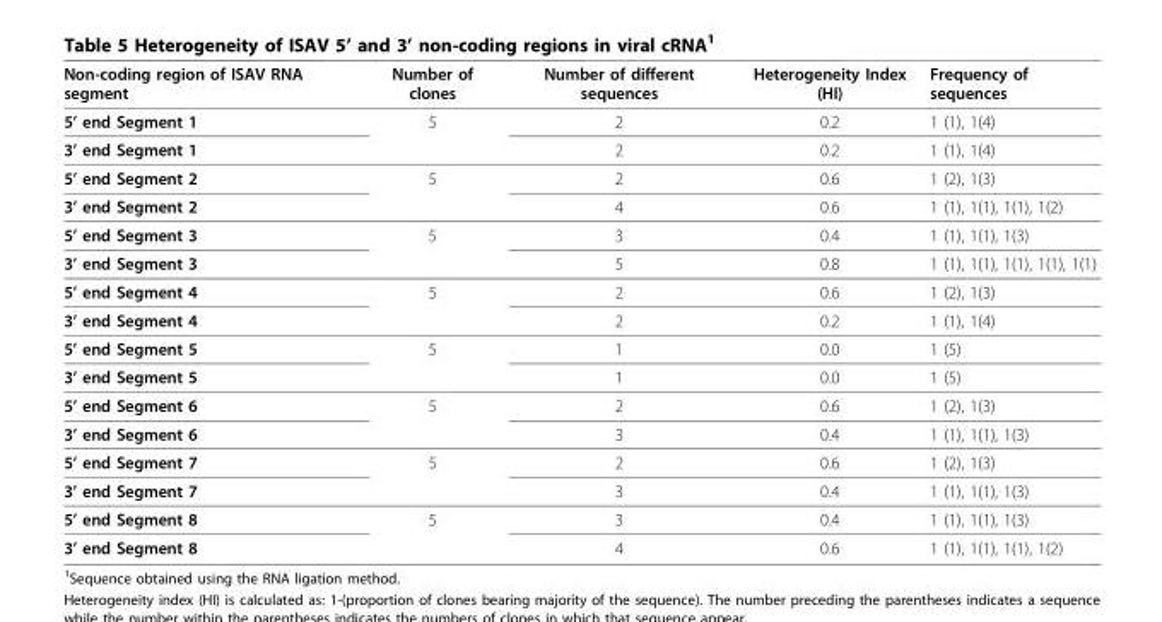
<table><thead><tr><td>Non-coding region of ISAV RNA segment</td><td>Number of clones</td><td>Number of different sequences</td><td>Heterogeneity Index (HI)</td><td>Frequency of sequences</td></tr></thead><tbody><tr><td>5’ end Segment 1</td><td>5</td><td>2</td><td>0.2</td><td>1 (1), 1(4)</td></tr><tr><td>3’ end Segment 1</td><td></td><td>2</td><td>0.2</td><td>1 (1), 1(4)</td></tr><tr><td>5’ end Segment 2</td><td>5</td><td>2</td><td>0.6</td><td>1 (2), 1(3)</td></tr><tr><td>3’ end Segment 2</td><td></td><td>4</td><td>0.6</td><td>1 (1), 1(1), 1(1), 1(2)</td></tr><tr><td>5’ end Segment 3</td><td>5</td><td>3</td><td>0.4</td><td>1 (1), 1(1), 1(3)</td></tr><tr><td>3’ end Segment 3</td><td></td><td>5</td><td>0.8</td><td>1 (1), 1(1), 1(1), 1(1), 1(1)</td></tr><tr><td>5’ end Segment 4</td><td>5</td><td>2</td><td>0.6</td><td>1 (2), 1(3)</td></tr><tr><td>3’ end Segment 4</td><td></td><td>2</td><td>0.2</td><td>1 (1), 1(4)</td></tr><tr><td>5’ end Segment 5</td><td>5</td><td>1</td><td>0.0</td><td>1 (5)</td></tr><tr><td>3’ end Segment 5</td><td></td><td>1</td><td>0.0</td><td>1 (5)</td></tr><tr><td>5’ end Segment 6</td><td>5</td><td>2</td><td>0.6</td><td>1 (2), 1(3)</td></tr><tr><td>3’ end Segment 6</td><td></td><td>3</td><td>0.4</td><td>1 (1), 1(1), 1(3)</td></tr><tr><td>5’ end Segment 7</td><td>5</td><td>2</td><td>0.6</td><td>1 (2), 1(3)</td></tr><tr><td>3’ end Segment 7</td><td></td><td>3</td><td>0.4</td><td>1 (1), 1(1), 1(3)</td></tr><tr><td>5’ end Segment 8</td><td>5</td><td>3</td><td>0.4</td><td>1 (1), 1(1), 1(3)</td></tr><tr><td>3’ end Segment 8</td><td></td><td>4</td><td>0.6</td><td>1 (1), 1(1), 1(1), 1(2)</td></tr></tbody></table>